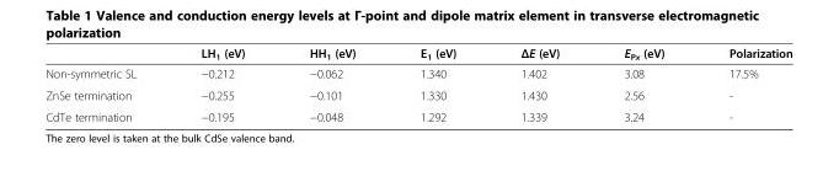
<table><thead><tr><td></td><td>LH<sub>1</sub> (eV)</td><td>HH<sub>1</sub> (eV)</td><td>E<sub>1</sub> (eV)</td><td>ΔE (eV)</td><td>E<sub>Px</sub> (eV)</td><td>Polarization</td></tr></thead><tbody><tr><td>Non-symmetric SL</td><td>−0.212</td><td>−0.062</td><td>1.340</td><td>1.402</td><td>3.08</td><td>17.5%</td></tr><tr><td>ZnSe termination</td><td>−0.255</td><td>−0.101</td><td>1.330</td><td>1.430</td><td>2.56</td><td>-</td></tr><tr><td>CdTe termination</td><td>−0.195</td><td>−0.048</td><td>1.292</td><td>1.339</td><td>3.24</td><td>-</td></tr></tbody></table>